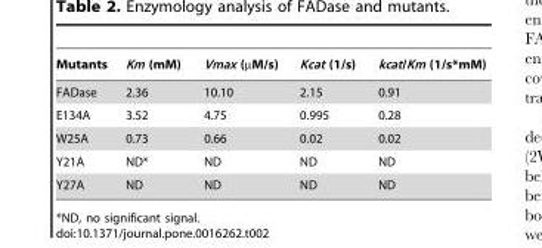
<table><thead><tr><td>Mutants</td><td>Km (mM)</td><td>Vmax (µM/s)</td><td>Kcat (1/s)</td><td>kcat/Km (1/s*mM)</td></tr></thead><tbody><tr><td>FADase</td><td>2.36</td><td>10.10</td><td>2.15</td><td>0.91</td></tr><tr><td>E134A</td><td>3.52</td><td>4.75</td><td>0.995</td><td>0.28</td></tr><tr><td>W25A</td><td>0.73</td><td>0.66</td><td>0.02</td><td>0.02</td></tr><tr><td>Y21A</td><td>ND*</td><td>ND</td><td>ND</td><td>ND</td></tr><tr><td>Y27A</td><td>ND</td><td>ND</td><td>ND</td><td>ND</td></tr></tbody></table>